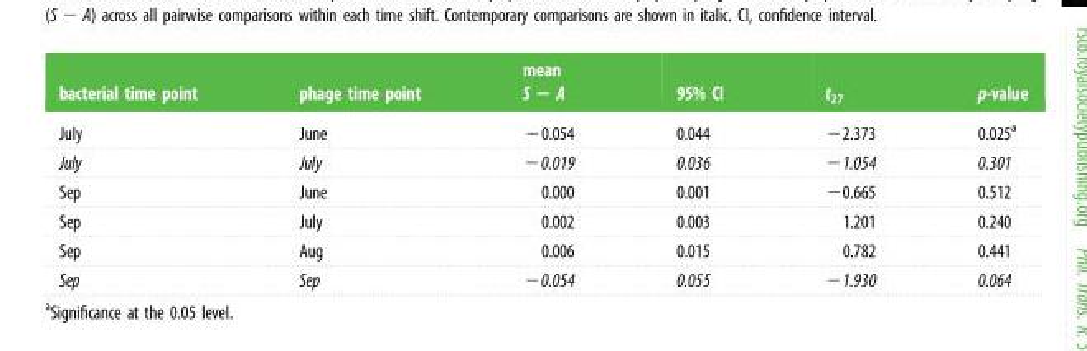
<table><thead><tr><td>bacterial time point</td><td>phage time point</td><td>mean S − A</td><td>95% CI</td><td>t<sub>27</sub></td><td>p-value</td></tr></thead><tbody><tr><td>July</td><td>June</td><td>−0.054</td><td>0.044</td><td>−2.373</td><td>0.025<sup>a</sup></td></tr><tr><td>July</td><td>July</td><td>−0.019</td><td>0.036</td><td>−1.054</td><td>0.301</td></tr><tr><td>Sep</td><td>June</td><td>0.000</td><td>0.001</td><td>−0.665</td><td>0.512</td></tr><tr><td>Sep</td><td>July</td><td>0.002</td><td>0.003</td><td>1.201</td><td>0.240</td></tr><tr><td>Sep</td><td>Aug</td><td>0.006</td><td>0.015</td><td>0.782</td><td>0.441</td></tr><tr><td>Sep</td><td>Sep</td><td>−0.054</td><td>0.055</td><td>−1.930</td><td>0.064</td></tr></tbody></table>